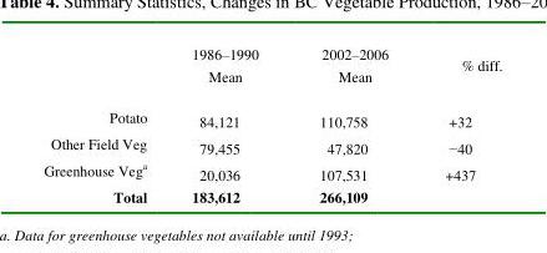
<table><thead><tr><td></td><td>1986–1990 Mean</td><td>2002–2006 Mean</td><td>% diff.</td></tr></thead><tbody><tr><td>Potato</td><td>84,121</td><td>110,758</td><td>+32</td></tr><tr><td>Other Field Veg</td><td>79,455</td><td>47,820</td><td>−40</td></tr><tr><td>Greenhouse Veg<sup>a</sup></td><td>20,036</td><td>107,531</td><td>+437</td></tr><tr><td>Total</td><td>183,612</td><td>266,109</td><td></td></tr></tbody></table>